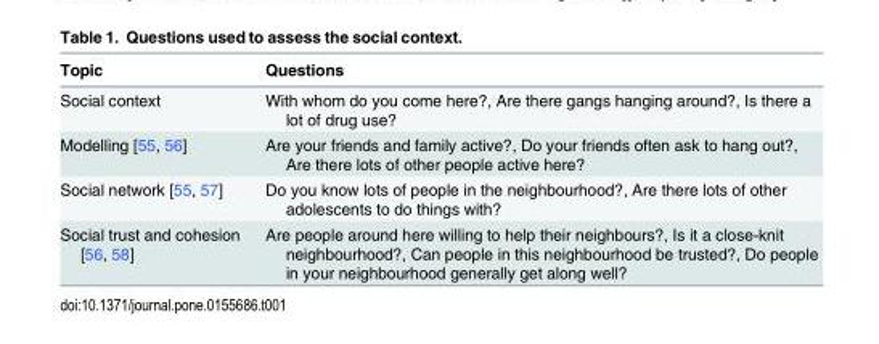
<table><thead><tr><td>Topic</td><td>Questions</td></tr></thead><tbody><tr><td>Social context</td><td>With whom do you come here?, Are there gangs hanging around?, Is there a lot of drug use?</td></tr><tr><td>Modelling [55, 56]</td><td>Are your friends and family active?, Do your friends often ask to hang out?, Are there lots of other people active here?</td></tr><tr><td>Social network [55, 57]</td><td>Do you know lots of people in the neighbourhood?, Are there lots of other adolescents to do things with?</td></tr><tr><td>Social trust and cohesion [56, 58]</td><td>Are people around here willing to help their neighbours?, Is it a close-knit neighbourhood?, Can people in this neighbourhood be trusted?, Do people in your neighbourhood generally get along well?</td></tr></tbody></table>